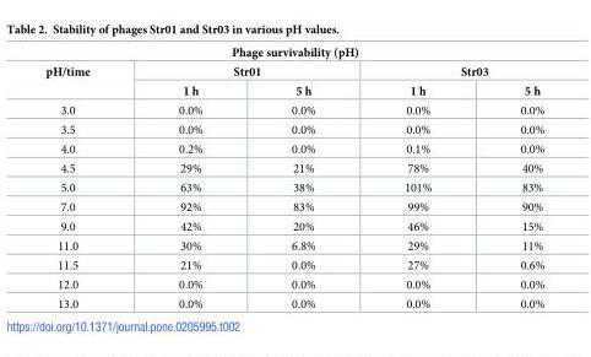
<table><thead><tr><td colspan="5">Phage survivability (pH)</td></tr><tr><td rowspan="2">pH/time</td><td colspan="2">Str01</td><td colspan="2">Str03</td></tr><tr><td>1 h</td><td>5 h</td><td>1 h</td><td>5 h</td></tr></thead><tbody><tr><td>3.0</td><td>0.0%</td><td>0.0%</td><td>0.0%</td><td>0.0%</td></tr><tr><td>3.5</td><td>0.0%</td><td>0.0%</td><td>0.0%</td><td>0.0%</td></tr><tr><td>4.0</td><td>0.2%</td><td>0.0%</td><td>0.1%</td><td>0.0%</td></tr><tr><td>4.5</td><td>29%</td><td>21%</td><td>78%</td><td>40%</td></tr><tr><td>5.0</td><td>63%</td><td>38%</td><td>101%</td><td>83%</td></tr><tr><td>7.0</td><td>92%</td><td>83%</td><td>99%</td><td>90%</td></tr><tr><td>9.0</td><td>42%</td><td>20%</td><td>46%</td><td>15%</td></tr><tr><td>11.0</td><td>30%</td><td>6.8%</td><td>29%</td><td>11%</td></tr><tr><td>11.5</td><td>21%</td><td>0.0%</td><td>27%</td><td>0.6%</td></tr><tr><td>12.0</td><td>0.0%</td><td>0.0%</td><td>0.0%</td><td>0.0%</td></tr><tr><td>13.0</td><td>0.0%</td><td>0.0%</td><td>0.0%</td><td>0.0%</td></tr></tbody></table>